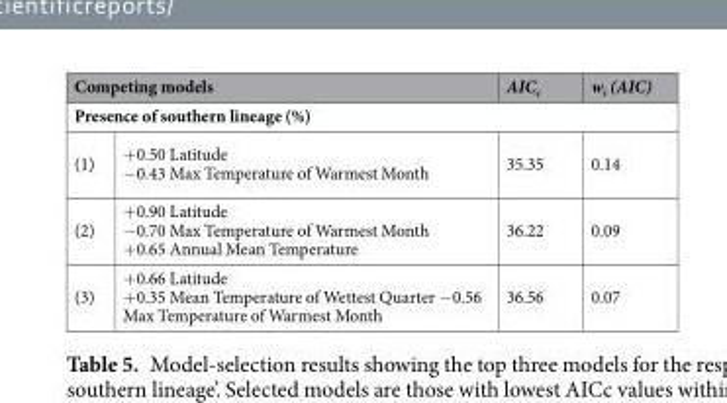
<table><thead><tr><td colspan="2">Competing models</td><td>AIC<sub>c</sub></td><td>w<sub>i</sub> (AIC)</td></tr><tr><td colspan="4">Presence of southern lineage (%)</td></tr><tr><td>(1)</td><td>+0.50 Latitude −0.43 Max Temperature of Warmest Month</td><td>35.35</td><td>0.14</td></tr></thead><tbody><tr><td>(2)</td><td>+0.90 Latitude −0.70 Max Temperature of Warmest Month +0.65 Annual Mean Temperature</td><td>36.22</td><td>0.09</td></tr><tr><td>(3)</td><td>+0.66 Latitude +0.35 Mean Temperature of Wettest Quarter −0.56 Max Temperature of Warmest Month</td><td>36.56</td><td>0.07</td></tr></tbody></table>